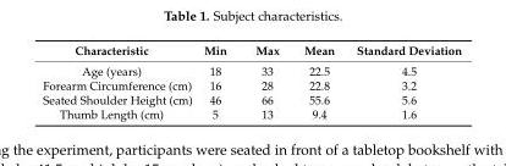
<table><thead><tr><td>Characteristic</td><td>Min</td><td>Max</td><td>Mean</td><td>Standard Deviation</td></tr></thead><tbody><tr><td>Age (years)</td><td>18</td><td>33</td><td>22.5</td><td>4.5</td></tr><tr><td>Forearm Circumference (cm)</td><td>16</td><td>28</td><td>22.8</td><td>3.2</td></tr><tr><td>Seated Shoulder Height (cm)</td><td>46</td><td>66</td><td>55.6</td><td>5.6</td></tr><tr><td>Thumb Length (cm)</td><td>5</td><td>13</td><td>9.4</td><td>1.6</td></tr></tbody></table>